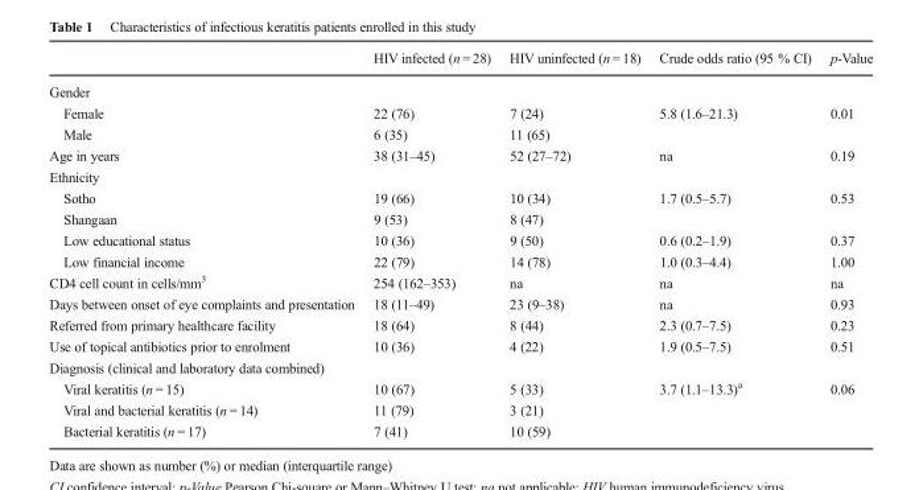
<table><thead><tr><td></td><td>HIV infected (n = 28)</td><td>HIV uninfected (n = 18)</td><td>Crude odds ratio (95 % CI)</td><td>p-Value</td></tr></thead><tbody><tr><td colspan="5">Gender</td></tr><tr><td>Female</td><td>22 (76)</td><td>7 (24)</td><td>5.8 (1.6–21.3)</td><td>0.01</td></tr><tr><td>Male</td><td>6 (35)</td><td>11 (65)</td><td></td><td></td></tr><tr><td>Age in years</td><td>38 (31–45)</td><td>52 (27–72)</td><td>na</td><td>0.19</td></tr><tr><td colspan="5">Ethnicity</td></tr><tr><td>Sotho</td><td>19 (66)</td><td>10 (34)</td><td>1.7 (0.5–5.7)</td><td>0.53</td></tr><tr><td>Shangaan</td><td>9 (53)</td><td>8 (47)</td><td></td><td></td></tr><tr><td>Low educational status</td><td>10 (36)</td><td>9 (50)</td><td>0.6 (0.2–1.9)</td><td>0.37</td></tr><tr><td>Low financial income</td><td>22 (79)</td><td>14 (78)</td><td>1.0 (0.3–4.4)</td><td>1.00</td></tr><tr><td>CD4 cell count in cells/mm<sup>3</sup></td><td>254 (162–353)</td><td>na</td><td>na</td><td>na</td></tr><tr><td>Days between onset of eye complaints and presentation</td><td>18 (11–49)</td><td>23 (9–38)</td><td>na</td><td>0.93</td></tr><tr><td>Referred from primary healthcare facility</td><td>18 (64)</td><td>8 (44)</td><td>2.3 (0.7–7.5)</td><td>0.23</td></tr><tr><td>Use of topical antibiotics prior to enrolment</td><td>10 (36)</td><td>4 (22)</td><td>1.9 (0.5–7.5)</td><td>0.51</td></tr><tr><td colspan="5">Diagnosis (clinical and laboratory data combined)</td></tr><tr><td>Viral keratitis (n = 15)</td><td>10 (67)</td><td>5 (33)</td><td>3.7 (1.1–13.3)<sup>a</sup></td><td>0.06</td></tr><tr><td>Viral and bacterial keratitis (n = 14)</td><td>11 (79)</td><td>3 (21)</td><td></td><td></td></tr><tr><td>Bacterial keratitis (n = 17)</td><td>7 (41)</td><td>10 (59)</td><td></td><td></td></tr></tbody></table>